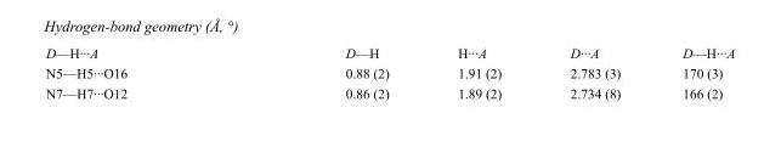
<table><tbody><tr><td>D—H···A</td><td>D—H</td><td>H···A</td><td>D···A</td><td>D—H···A</td></tr><tr><td>N5—H5···O16</td><td>0.88 (2)</td><td>1.91 (2)</td><td>2.783 (3)</td><td>170 (3)</td></tr><tr><td>N7—H7···O12</td><td>0.86 (2)</td><td>1.89 (2)</td><td>2.734 (8)</td><td>166 (2)</td></tr></tbody></table>